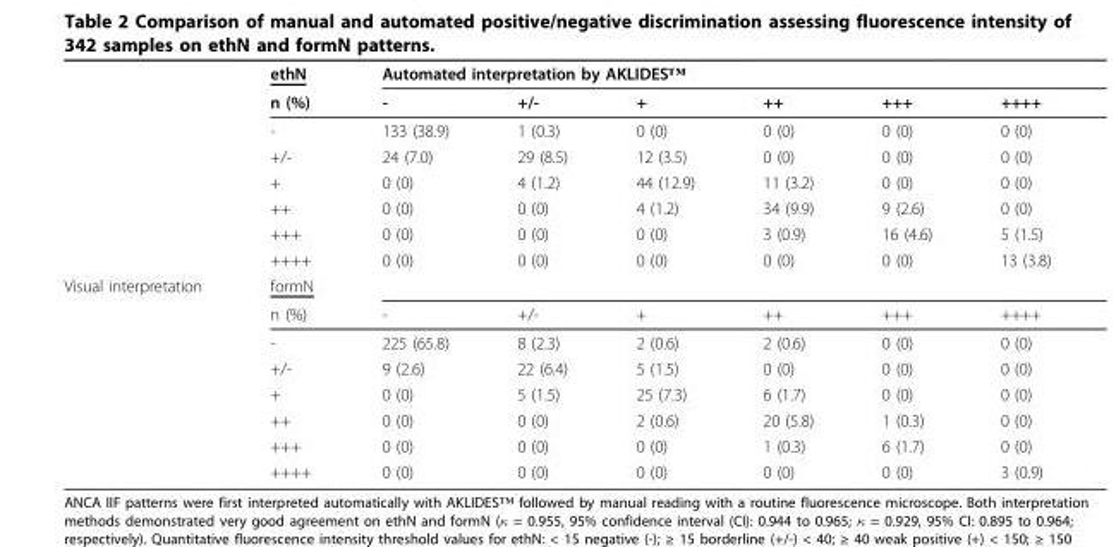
<table><thead><tr><td rowspan="2"></td><td rowspan="2">ethN n (%)</td><td colspan="6">Automated interpretation by AKLIDES™</td></tr><tr><td>-</td><td>+/-</td><td>+</td><td>++</td><td>+++</td><td>++++</td></tr></thead><tbody><tr><td></td><td>-</td><td>133 (38.9)</td><td>1 (0.3)</td><td>0 (0)</td><td>0 (0)</td><td>0 (0)</td><td>0 (0)</td></tr><tr><td></td><td>+/-</td><td>24 (7.0)</td><td>29 (8.5)</td><td>12 (3.5)</td><td>0 (0)</td><td>0 (0)</td><td>0 (0)</td></tr><tr><td></td><td>+</td><td>0 (0)</td><td>4 (1.2)</td><td>44 (12.9)</td><td>11 (3.2)</td><td>0 (0)</td><td>0 (0)</td></tr><tr><td></td><td>++</td><td>0 (0)</td><td>0 (0)</td><td>4 (1.2)</td><td>34 (9.9)</td><td>9 (2.6)</td><td>0 (0)</td></tr><tr><td></td><td>+++</td><td>0 (0)</td><td>0 (0)</td><td>0 (0)</td><td>3 (0.9)</td><td>16 (4.6)</td><td>5 (1.5)</td></tr><tr><td></td><td>++++</td><td>0 (0)</td><td>0 (0)</td><td>0 (0)</td><td>0 (0)</td><td>0 (0)</td><td>13 (3.8)</td></tr><tr><td rowspan="8">Visual interpretation</td><td>formN</td><td></td><td></td><td></td><td></td><td></td><td></td></tr><tr><td>n (%)</td><td>-</td><td>+/-</td><td>+</td><td>++</td><td>+++</td><td>++++</td></tr><tr><td>-</td><td>225 (65.8)</td><td>8 (2.3)</td><td>2 (0.6)</td><td>2 (0.6)</td><td>0 (0)</td><td>0 (0)</td></tr><tr><td>+/-</td><td>9 (2.6)</td><td>22 (6.4)</td><td>5 (1.5)</td><td>0 (0)</td><td>0 (0)</td><td>0 (0)</td></tr><tr><td>+</td><td>0 (0)</td><td>5 (1.5)</td><td>25 (7.3)</td><td>6 (1.7)</td><td>0 (0)</td><td>0 (0)</td></tr><tr><td>++</td><td>0 (0)</td><td>0 (0)</td><td>2 (0.6)</td><td>20 (5.8)</td><td>1 (0.3)</td><td>0 (0)</td></tr><tr><td>+++</td><td>0 (0)</td><td>0 (0)</td><td>0 (0)</td><td>1 (0.3)</td><td>6 (1.7)</td><td>0 (0)</td></tr><tr><td>++++</td><td>0 (0)</td><td>0 (0)</td><td>0 (0)</td><td>0 (0)</td><td>0 (0)</td><td>3 (0.9)</td></tr></tbody></table>